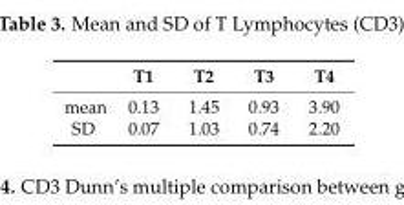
<table><thead><tr><td></td><td>T1</td><td>T2</td><td>T3</td><td>T4</td></tr></thead><tbody><tr><td>mean</td><td>0.13</td><td>1.45</td><td>0.93</td><td>3.90</td></tr><tr><td>SD</td><td>0.07</td><td>1.03</td><td>0.74</td><td>2.20</td></tr></tbody></table>